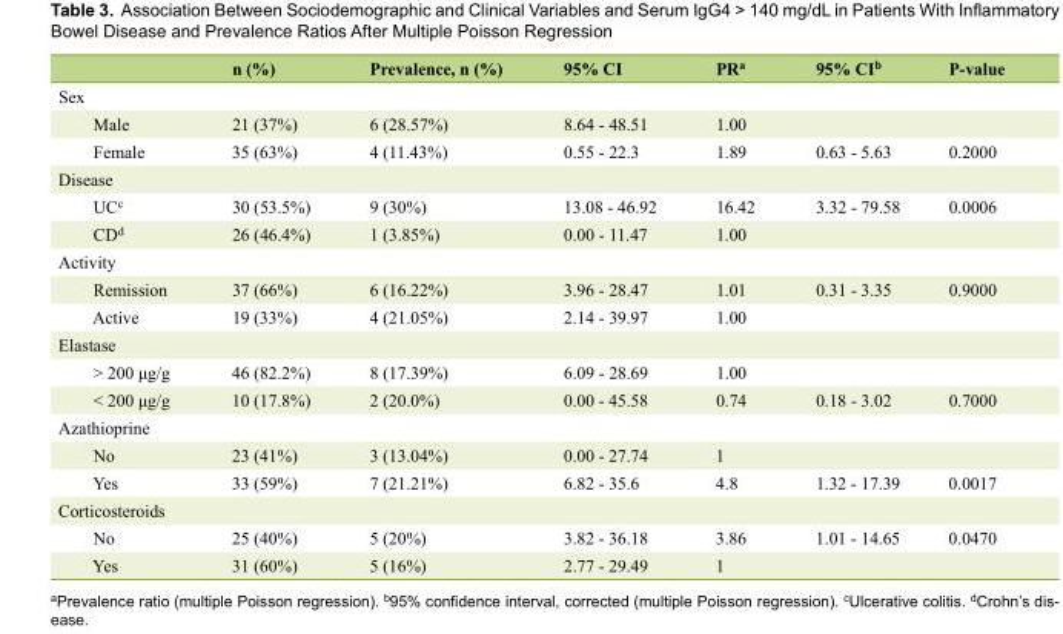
<table><thead><tr><td></td><td>n (%)</td><td>Prevalence, n (%)</td><td>95% CI</td><td>PR<sup>a</sup></td><td>95% CI<sup>b</sup></td><td>P-value</td></tr></thead><tbody><tr><td colspan="7">Sex</td></tr><tr><td>Male</td><td>21 (37%)</td><td>6 (28.57%)</td><td>8.64 - 48.51</td><td>1.00</td><td></td><td></td></tr><tr><td>Female</td><td>35 (63%)</td><td>4 (11.43%)</td><td>0.55 - 22.3</td><td>1.89</td><td>0.63 - 5.63</td><td>0.2000</td></tr><tr><td colspan="7">Disease</td></tr><tr><td>UC<sup>c</sup></td><td>30 (53.5%)</td><td>9 (30%)</td><td>13.08 - 46.92</td><td>16.42</td><td>3.32 - 79.58</td><td>0.0006</td></tr><tr><td>CD<sup>d</sup></td><td>26 (46.4%)</td><td>1 (3.85%)</td><td>0.00 - 11.47</td><td>1.00</td><td></td><td></td></tr><tr><td colspan="7">Activity</td></tr><tr><td>Remission</td><td>37 (66%)</td><td>6 (16.22%)</td><td>3.96 - 28.47</td><td>1.01</td><td>0.31 - 3.35</td><td>0.9000</td></tr><tr><td>Active</td><td>19 (33%)</td><td>4 (21.05%)</td><td>2.14 - 39.97</td><td>1.00</td><td></td><td></td></tr><tr><td colspan="7">Elastase</td></tr><tr><td>&gt; 200 μg/g</td><td>46 (82.2%)</td><td>8 (17.39%)</td><td>6.09 - 28.69</td><td>1.00</td><td></td><td></td></tr><tr><td>&lt; 200 μg/g</td><td>10 (17.8%)</td><td>2 (20.0%)</td><td>0.00 - 45.58</td><td>0.74</td><td>0.18 - 3.02</td><td>0.7000</td></tr><tr><td colspan="7">Azathioprine</td></tr><tr><td>No</td><td>23 (41%)</td><td>3 (13.04%)</td><td>0.00 - 27.74</td><td>1</td><td></td><td></td></tr><tr><td>Yes</td><td>33 (59%)</td><td>7 (21.21%)</td><td>6.82 - 35.6</td><td>4.8</td><td>1.32 - 17.39</td><td>0.0017</td></tr><tr><td colspan="7">Corticosteroids</td></tr><tr><td>No</td><td>25 (40%)</td><td>5 (20%)</td><td>3.82 - 36.18</td><td>3.86</td><td>1.01 - 14.65</td><td>0.0470</td></tr><tr><td>Yes</td><td>31 (60%)</td><td>5 (16%)</td><td>2.77 - 29.49</td><td>1</td><td></td><td></td></tr></tbody></table>